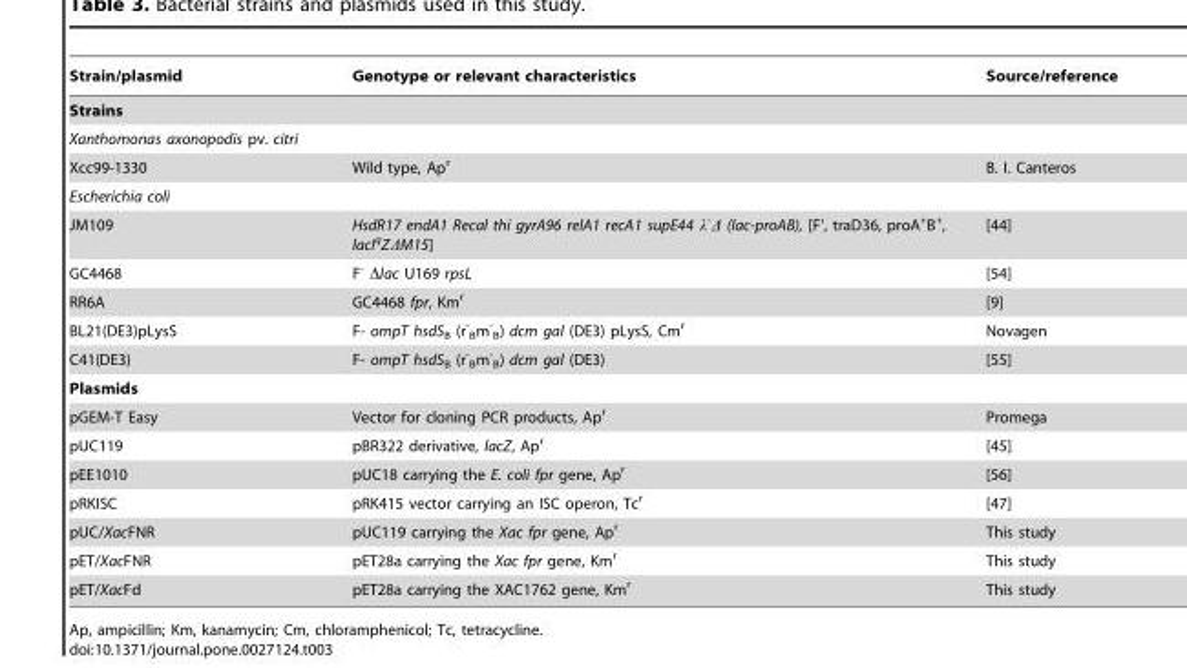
<table><thead><tr><td>Strain/plasmid</td><td>Genotype or relevant characteristics</td><td>Source/reference</td></tr></thead><tbody><tr><td colspan="3">Strains</td></tr><tr><td colspan="3">Xanthomonas axonopodis pv. citri</td></tr><tr><td>Xcc99-1330</td><td>Wild type, Ap<sup>r</sup></td><td>B. I. Canteros</td></tr><tr><td colspan="3">Escherichia coli</td></tr><tr><td>JM109</td><td>HsdR17 endA1 Recal thi gyrA96 relA1 recA1 supE44 λ<sup>-</sup>Δ (lac-proAB), [F’, traD36, proA<sup>+</sup>B<sup>+</sup>, lacI<sup>q</sup>ZΔM15]</td><td>[44]</td></tr><tr><td>GC4468</td><td>F<sup>-</sup> Δlac U169 rpsL</td><td>[54]</td></tr><tr><td>RR6A</td><td>GC4468 fpr, Km<sup>r</sup></td><td>[9]</td></tr><tr><td>BL21(DE3)pLysS</td><td>F- ompT hsdS<sub>B</sub> (r<sup>-</sup> <sub>B</sub>m<sup>-</sup> <sub>B</sub>) dcm gal (DE3) pLysS, Cm<sup>r</sup></td><td>Novagen</td></tr><tr><td>C41(DE3)</td><td>F- ompT hsdS<sub>B</sub> (r<sup>-</sup> <sub>B</sub>m<sup>-</sup> <sub>B</sub>) dcm gal (DE3)</td><td>[55]</td></tr><tr><td colspan="3">Plasmids</td></tr><tr><td>pGEM-T Easy</td><td>Vector for cloning PCR products, Ap<sup>r</sup></td><td>Promega</td></tr><tr><td>pUC119</td><td>pBR322 derivative, lacZ, Ap<sup>r</sup></td><td>[45]</td></tr><tr><td>pEE1010</td><td>pUC18 carrying the E. coli fpr gene, Ap<sup>r</sup></td><td>[56]</td></tr><tr><td>pRKISC</td><td>pRK415 vector carrying an ISC operon, Tc<sup>r</sup></td><td>[47]</td></tr><tr><td>pUC/XacFNR</td><td>pUC119 carrying the Xac fpr gene, Ap<sup>r</sup></td><td>This study</td></tr><tr><td>pET/XacFNR</td><td>pET28a carrying the Xac fpr gene, Km<sup>r</sup></td><td>This study</td></tr><tr><td>pET/XacFd</td><td>pET28a carrying the XAC1762 gene, Km<sup>r</sup></td><td>This study</td></tr></tbody></table>